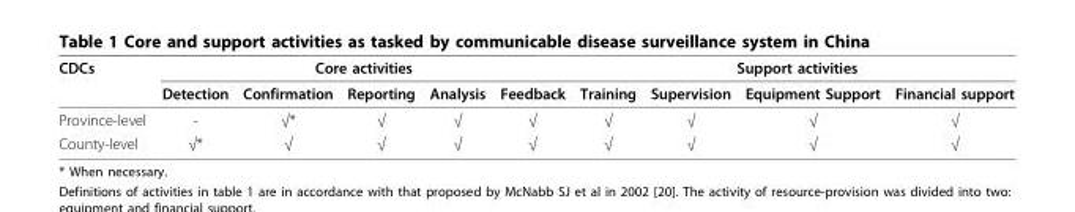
<table><thead><tr><td rowspan="2">CDCs</td><td colspan="5">Core activities</td><td colspan="4">Support activities</td></tr><tr><td>Detection</td><td>Confirmation</td><td>Reporting</td><td>Analysis</td><td>Feedback</td><td>Training</td><td>Supervision</td><td>Equipment Support</td><td>Financial support</td></tr></thead><tbody><tr><td>Province-level</td><td>-</td><td>√*</td><td>√</td><td>√</td><td>√</td><td>√</td><td>√</td><td>√</td><td>√</td></tr><tr><td>County-level</td><td>√*</td><td>√</td><td>√</td><td>√</td><td>√</td><td>√</td><td>√</td><td>√</td><td>√</td></tr></tbody></table>